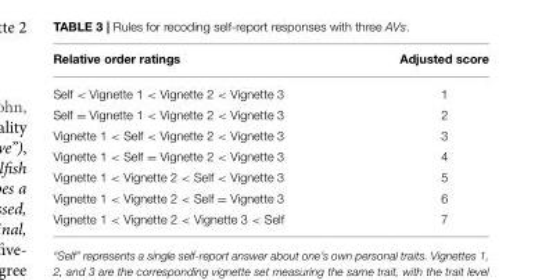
<table><thead><tr><td>Relative order ratings</td><td>Adjusted score</td></tr></thead><tbody><tr><td>Self &lt; Vignette 1 &lt; Vignette 2 &lt; Vignette 3</td><td>1</td></tr><tr><td>Self = Vignette 1 &lt; Vignette 2 &lt; Vignette 3</td><td>2</td></tr><tr><td>Vignette 1 &lt; Self &lt; Vignette 2 &lt; Vignette 3</td><td>3</td></tr><tr><td>Vignette 1 &lt; Self = Vignette 2 &lt; Vignette 3</td><td>4</td></tr><tr><td>Vignette 1 &lt; Vignette 2 &lt; Self &lt; Vignette 3</td><td>5</td></tr><tr><td>Vignette 1 &lt; Vignette 2 &lt; Self = Vignette 3</td><td>6</td></tr><tr><td>Vignette 1 &lt; Vignette 2 &lt; Vignette 3 &lt; Self</td><td>7</td></tr></tbody></table>